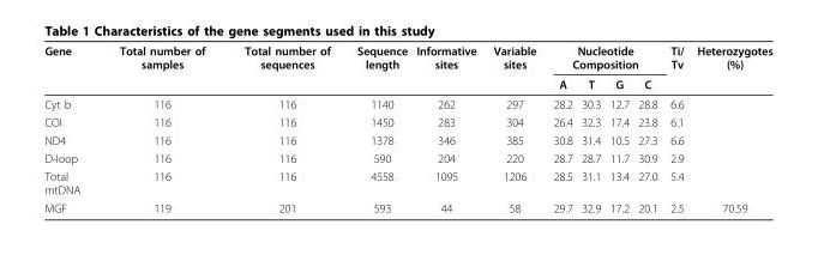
<table><thead><tr><td rowspan="2">Gene</td><td rowspan="2">Total number of samples</td><td rowspan="2">Total number of sequences</td><td rowspan="2">Sequence length</td><td rowspan="2">Informative sites</td><td rowspan="2">Variable sites</td><td colspan="4">Nucleotide Composition</td><td rowspan="2">Ti/ Tv</td><td rowspan="2">Heterozygotes (%)</td></tr><tr><td>A</td><td>T</td><td>G</td><td>C</td></tr></thead><tbody><tr><td>Cyt b</td><td>116</td><td>116</td><td>1140</td><td>262</td><td>297</td><td>28.2</td><td>30.3</td><td>12.7</td><td>28.8</td><td>6.6</td><td></td></tr><tr><td>COI</td><td>116</td><td>116</td><td>1450</td><td>283</td><td>304</td><td>26.4</td><td>32.3</td><td>17.4</td><td>23.8</td><td>6.1</td><td></td></tr><tr><td>ND4</td><td>116</td><td>116</td><td>1378</td><td>346</td><td>385</td><td>30.8</td><td>31.4</td><td>10.5</td><td>27.3</td><td>6.6</td><td></td></tr><tr><td>D-loop</td><td>116</td><td>116</td><td>590</td><td>204</td><td>220</td><td>28.7</td><td>28.7</td><td>11.7</td><td>30.9</td><td>2.9</td><td></td></tr><tr><td>Total mtDNA</td><td>116</td><td>116</td><td>4558</td><td>1095</td><td>1206</td><td>28.5</td><td>31.1</td><td>13.4</td><td>27.0</td><td>5.4</td><td></td></tr><tr><td>MGF</td><td>119</td><td>201</td><td>593</td><td>44</td><td>58</td><td>29.7</td><td>32.9</td><td>17.2</td><td>20.1</td><td>2.5</td><td>70.59</td></tr></tbody></table>